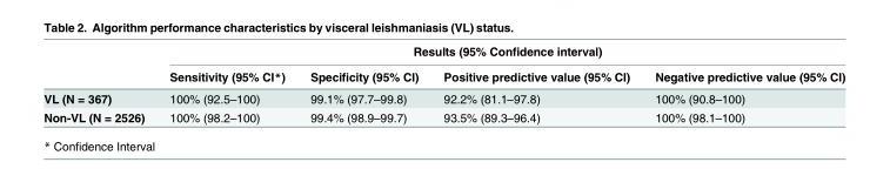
<table><thead><tr><td rowspan="2"></td><td colspan="4">Results (95% Confidence interval)</td></tr><tr><td>Sensitivity (95% CI*)</td><td>Specificity (95% CI)</td><td>Positive predictive value (95% CI)</td><td>Negative predictive value (95% CI)</td></tr></thead><tbody><tr><td>VL (N = 367)</td><td>100% (92.5–100)</td><td>99.1% (97.7–99.8)</td><td>92.2% (81.1–97.8)</td><td>100% (90.8–100)</td></tr><tr><td>Non-VL (N = 2526)</td><td>100% (98.2–100)</td><td>99.4% (98.9–99.7)</td><td>93.5% (89.3–96.4)</td><td>100% (98.1–100)</td></tr></tbody></table>